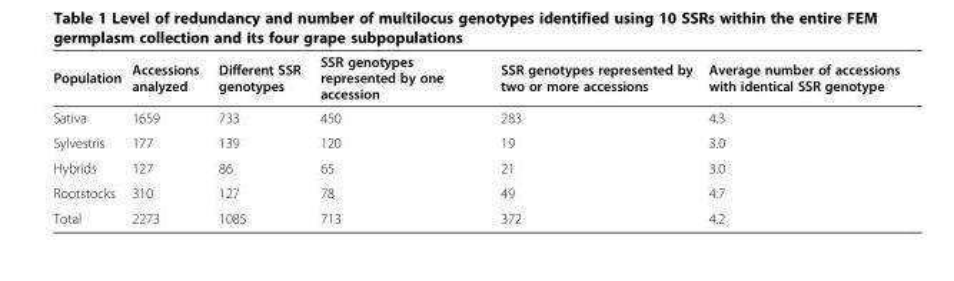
<table><thead><tr><td>Population</td><td>Accessions analyzed</td><td>Different SSR genotypes</td><td>SSR genotypes represented by one accession</td><td>SSR genotypes represented by two or more accessions</td><td>Average number of accessions with identical SSR genotype</td></tr></thead><tbody><tr><td>Sativa</td><td>1659</td><td>733</td><td>450</td><td>283</td><td>4.3</td></tr><tr><td>Sylvestris</td><td>177</td><td>139</td><td>120</td><td>19</td><td>3.0</td></tr><tr><td>Hybrids</td><td>127</td><td>86</td><td>65</td><td>21</td><td>3.0</td></tr><tr><td>Rootstocks</td><td>310</td><td>127</td><td>78</td><td>49</td><td>4.7</td></tr><tr><td>Total</td><td>2273</td><td>1085</td><td>713</td><td>372</td><td>4.2</td></tr></tbody></table>